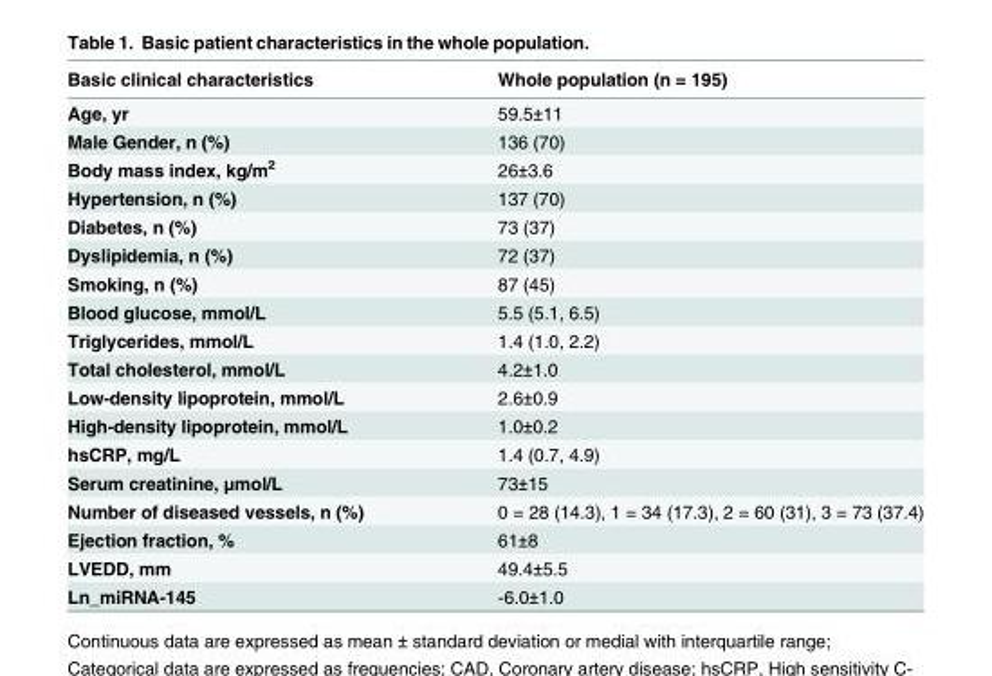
<table><thead><tr><td>Basic clinical characteristics</td><td>Whole population (n = 195)</td></tr></thead><tbody><tr><td>Age, yr</td><td>59.5±11</td></tr><tr><td>Male Gender, n (%)</td><td>136 (70)</td></tr><tr><td>Body mass index, kg/m<sup>2</sup></td><td>26±3.6</td></tr><tr><td>Hypertension, n (%)</td><td>137 (70)</td></tr><tr><td>Diabetes, n (%)</td><td>73 (37)</td></tr><tr><td>Dyslipidemia, n (%)</td><td>72 (37)</td></tr><tr><td>Smoking, n (%)</td><td>87 (45)</td></tr><tr><td>Blood glucose, mmol/L</td><td>5.5 (5.1, 6.5)</td></tr><tr><td>Triglycerides, mmol/L</td><td>1.4 (1.0, 2.2)</td></tr><tr><td>Total cholesterol, mmol/L</td><td>4.2±1.0</td></tr><tr><td>Low-density lipoprotein, mmol/L</td><td>2.6±0.9</td></tr><tr><td>High-density lipoprotein, mmol/L</td><td>1.0±0.2</td></tr><tr><td>hsCRP, mg/L</td><td>1.4 (0.7, 4.9)</td></tr><tr><td>Serum creatinine, μmol/L</td><td>73±15</td></tr><tr><td>Number of diseased vessels, n (%)</td><td>0 = 28 (14.3), 1 = 34 (17.3), 2 = 60 (31), 3 = 73 (37.4)</td></tr><tr><td>Ejection fraction, %</td><td>61±8</td></tr><tr><td>LVEDD, mm</td><td>49.4±5.5</td></tr><tr><td>Ln_miRNA-145</td><td>-6.0±1.0</td></tr></tbody></table>